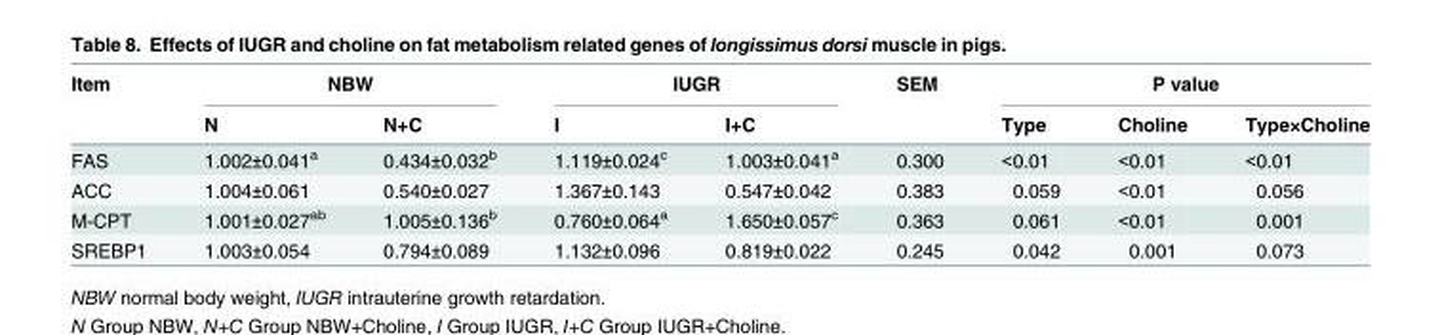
<table><thead><tr><td rowspan="2">Item</td><td colspan="2">NBW</td><td colspan="2">IUGR</td><td rowspan="2">SEM</td><td colspan="3">P value</td></tr><tr><td>N</td><td>N+C</td><td>I</td><td>I+C</td><td>Type</td><td>Choline</td><td>Type×Choline</td></tr></thead><tbody><tr><td>FAS</td><td>1.002±0.041<sup>a</sup></td><td>0.434±0.032<sup>b</sup></td><td>1.119±0.024<sup>c</sup></td><td>1.003±0.041<sup>a</sup></td><td>0.300</td><td>&lt;0.01</td><td>&lt;0.01</td><td>&lt;0.01</td></tr><tr><td>ACC</td><td>1.004±0.061</td><td>0.540±0.027</td><td>1.367±0.143</td><td>0.547±0.042</td><td>0.383</td><td>0.059</td><td>&lt;0.01</td><td>0.056</td></tr><tr><td>M-CPT</td><td>1.001±0.027<sup>ab</sup></td><td>1.005±0.136<sup>b</sup></td><td>0.760±0.064<sup>a</sup></td><td>1.650±0.057<sup>c</sup></td><td>0.363</td><td>0.061</td><td>&lt;0.01</td><td>0.001</td></tr><tr><td>SREBP1</td><td>1.003±0.054</td><td>0.794±0.089</td><td>1.132±0.096</td><td>0.819±0.022</td><td>0.245</td><td>0.042</td><td>0.001</td><td>0.073</td></tr></tbody></table>